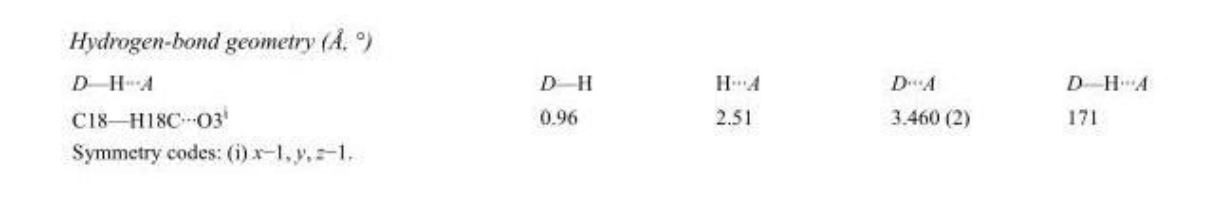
<table><tbody><tr><td>D—H···A</td><td>D—H</td><td>H···A</td><td>D···A</td><td>D—H···A</td></tr><tr><td>C18—H18C···O3<sup>i</sup></td><td>0.96</td><td>2.51</td><td>3.460 (2)</td><td>171</td></tr></tbody></table>